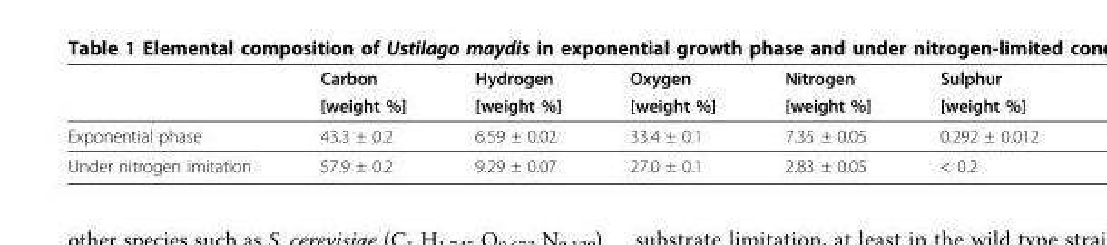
<table><thead><tr><td rowspan="2"></td><td rowspan="2">Carbon [weight %]</td><td rowspan="2">Hydrogen [weight %]</td><td rowspan="2">Oxygen [weight %]</td><td rowspan="2">Nitrogen [weight %]</td><td rowspan="2">Sulphur [weight %]</td></tr><tr></tr></thead><tbody><tr><td>Exponential phase</td><td>43.3 ± 0.2</td><td>6.59 ± 0.02</td><td>33.4 ± 0.1</td><td>7.35 ± 0.05</td><td>0.292 ± 0.012</td></tr><tr><td>Under nitrogen imitation</td><td>57.9 ± 0.2</td><td>9.29 ± 0.07</td><td>27.0 ± 0.1</td><td>2.83 ± 0.05</td><td>&lt; 0.2</td></tr></tbody></table>